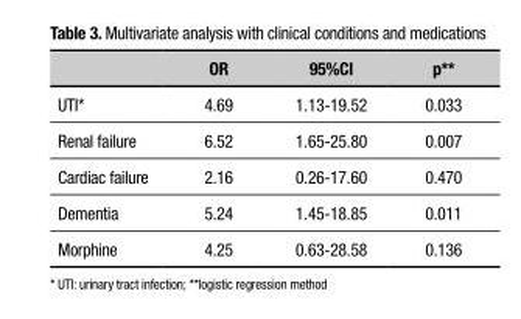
<table><thead><tr><td></td><td>OR</td><td>95%CI</td><td>p**</td></tr></thead><tbody><tr><td>UTI*</td><td>4.69</td><td>1.13-19.52</td><td>0.033</td></tr><tr><td>Renal failure</td><td>6.52</td><td>1.65-25.80</td><td>0.007</td></tr><tr><td>Cardiac failure</td><td>2.16</td><td>0.26-17.60</td><td>0.470</td></tr><tr><td>Dementia</td><td>5.24</td><td>1.45-18.85</td><td>0.011</td></tr><tr><td>Morphine</td><td>4.25</td><td>0.63-28.58</td><td>0.136</td></tr></tbody></table>